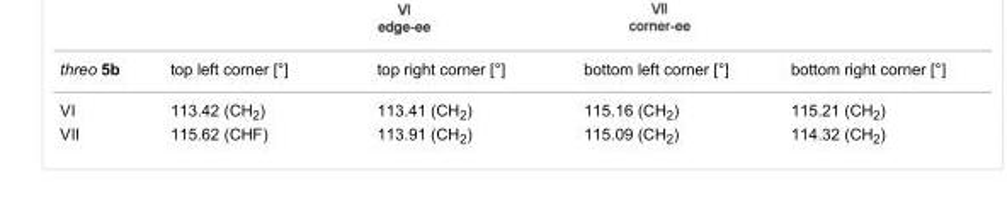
<table><tbody><tr><td>threo 5b</td><td>top left corner [°]</td><td>top right corner [°]</td><td>bottom left corner [°]</td><td>bottom right corner [°]</td></tr><tr><td>VI</td><td>113.42 (CH<sub>2</sub>)</td><td>113.41 (CH<sub>2</sub>)</td><td>115.16 (CH<sub>2</sub>)</td><td>115.21 (CH<sub>2</sub>)</td></tr><tr><td>VII</td><td>115.62 (CHF)</td><td>113.91 (CH<sub>2</sub>)</td><td>115.09 (CH<sub>2</sub>)</td><td>114.32 (CH<sub>2</sub>)</td></tr></tbody></table>